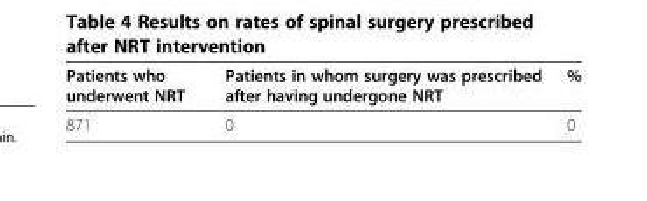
<table><thead><tr><td>Patients who underwent NRT</td><td>Patients in whom surgery was prescribed after having undergone NRT</td><td>%</td></tr></thead><tbody><tr><td>871</td><td>0</td><td>0</td></tr></tbody></table>